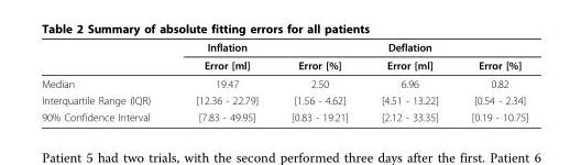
<table><thead><tr><td rowspan="2"></td><td rowspan="2">Inflation Error [ml]</td><td rowspan="2">Error [%]</td><td rowspan="2">Deflation Error [ml]</td><td rowspan="2">Error [%]</td></tr><tr></tr></thead><tbody><tr><td>Median</td><td>19.47</td><td>2.50</td><td>6.96</td><td>0.82</td></tr><tr><td>Interquartile Range (IQR)</td><td>[12.36 - 22.79]</td><td>[1.56 - 4.62]</td><td>[4.51 - 13.22]</td><td>[0.54 - 2.34]</td></tr><tr><td>90% Confidence Interval</td><td>[7.83 - 49.95]</td><td>[0.83 - 19.21]</td><td>[2.12 - 33.35]</td><td>[0.19 - 10.75]</td></tr></tbody></table>